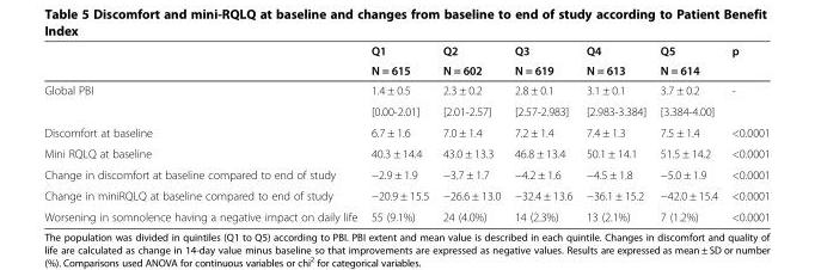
<table><thead><tr><td rowspan="2"></td><td rowspan="2">Q1 N = 615</td><td rowspan="2">Q2 N = 602</td><td rowspan="2">Q3 N = 619</td><td rowspan="2">Q4 N = 613</td><td rowspan="2">Q5 N = 614</td><td rowspan="2">p</td></tr><tr></tr></thead><tbody><tr><td rowspan="2">Global PBI</td><td>1.4 ± 0.5</td><td>2.3 ± 0.2</td><td>2.8 ± 0.1</td><td>3.1 ± 0.1</td><td>3.7 ± 0.2</td><td rowspan="2">-</td></tr><tr><td>[0.00-2.01]</td><td>[2.01-2.57]</td><td>[2.57-2.983]</td><td>[2.983-3.384]</td><td>[3.384-4.00]</td></tr><tr><td>Discomfort at baseline</td><td>6.7 ± 1.6</td><td>7.0 ± 1.4</td><td>7.2 ± 1.4</td><td>7.4 ± 1.3</td><td>7.5 ± 1.4</td><td>&lt;0.0001</td></tr><tr><td>Mini RQLQ at baseline</td><td>40.3 ± 14.4</td><td>43.0 ± 13.3</td><td>46.8 ± 13.4</td><td>50.1 ± 14.1</td><td>51.5 ± 14.2</td><td>&lt;0.0001</td></tr><tr><td>Change in discomfort at baseline compared to end of study</td><td>−2.9 ± 1.9</td><td>−3.7 ± 1.7</td><td>−4.2 ± 1.6</td><td>−4.5 ± 1.8</td><td>−5.0 ± 1.9</td><td>&lt;0.0001</td></tr><tr><td>Change in miniRQLQ at baseline compared to end of study</td><td>−20.9 ± 15.5</td><td>−26.6 ± 13.0</td><td>−32.4 ± 13.6</td><td>−36.1 ± 15.2</td><td>−42.0 ± 15.4</td><td>&lt;0.0001</td></tr><tr><td>Worsening in somnolence having a negative impact on daily life</td><td>55 (9.1%)</td><td>24 (4.0%)</td><td>14 (2.3%)</td><td>13 (2.1%)</td><td>7 (1.2%)</td><td>&lt;0.0001</td></tr></tbody></table>